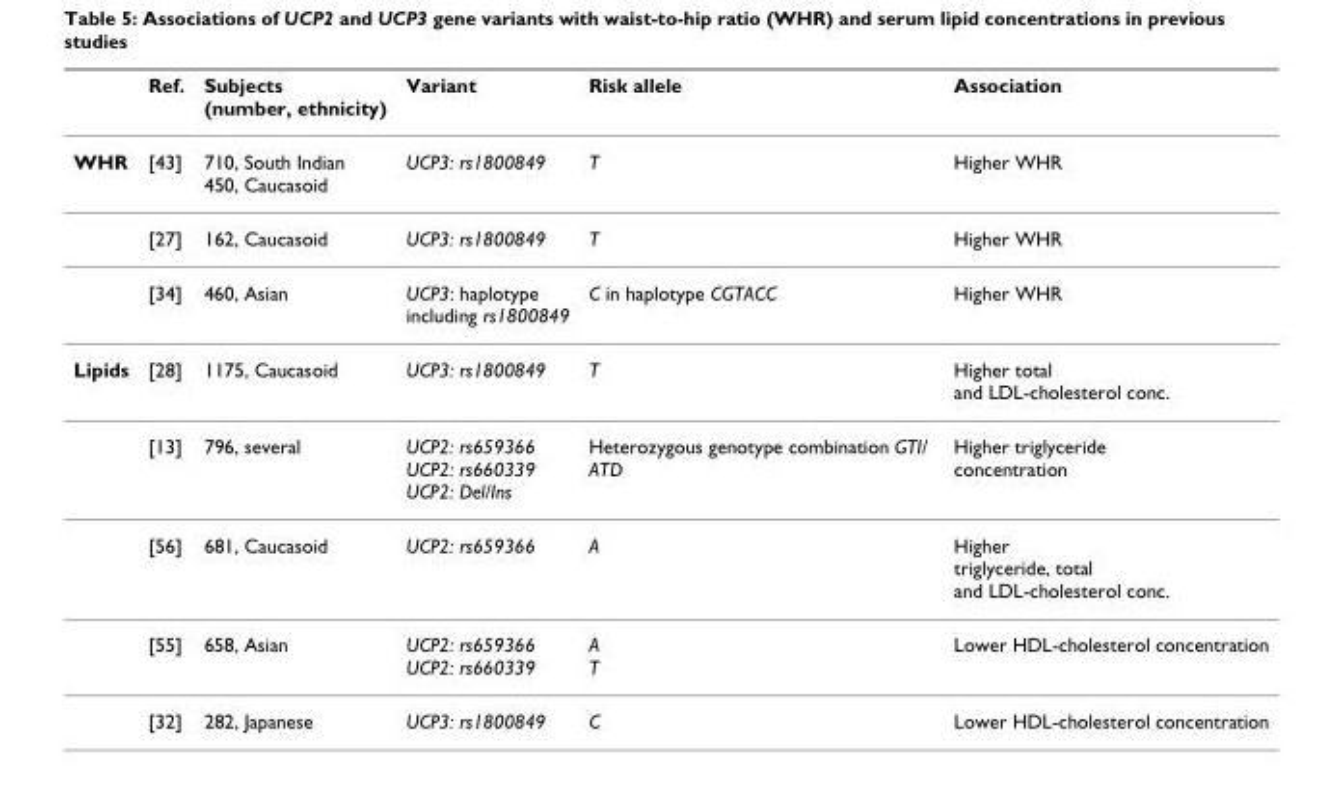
<table><thead><tr><td></td><td>Ref.</td><td>Subjects (number, ethnicity)</td><td>Variant</td><td>Risk allele</td><td>Association</td></tr></thead><tbody><tr><td rowspan="3">WHR</td><td>[43]</td><td>710, South Indian 450, Caucasoid</td><td>UCP3: rs1800849</td><td>T</td><td>Higher WHR</td></tr><tr><td>[27]</td><td>162, Caucasoid</td><td>UCP3: rs1800849</td><td>T</td><td>Higher WHR</td></tr><tr><td>[34]</td><td>460, Asian</td><td>UCP3: haplotype including rs1800849</td><td>C in haplotype CGTACC</td><td>Higher WHR</td></tr><tr><td rowspan="5">Lipids</td><td>[28]</td><td>1175, Caucasoid</td><td>UCP3: rs1800849</td><td>T</td><td>Higher total and LDL-cholesterol conc.</td></tr><tr><td>[13]</td><td>796, several</td><td>UCP2: rs659366 UCP2: rs660339 UCP2: Del/Ins</td><td>Heterozygous genotype combination GTI/ ATD</td><td>Higher triglyceride concentration</td></tr><tr><td>[56]</td><td>681, Caucasoid</td><td>UCP2: rs659366</td><td>A</td><td>Higher triglyceride, total and LDL-cholesterol conc.</td></tr><tr><td>[55]</td><td>658, Asian</td><td>UCP2: rs659366 UCP2: rs660339</td><td>A T</td><td>Lower HDL-cholesterol concentration</td></tr><tr><td>[32]</td><td>282, Japanese</td><td>UCP3: rs1800849</td><td>C</td><td>Lower HDL-cholesterol concentration</td></tr></tbody></table>